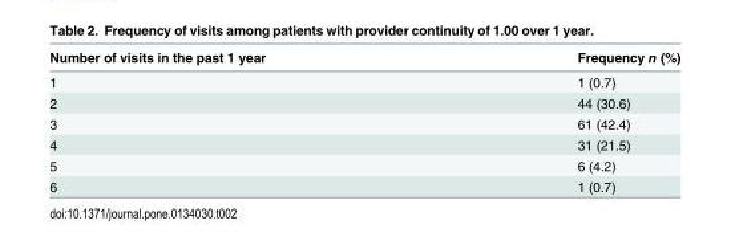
<table><thead><tr><td>Number of visits in the past 1 year</td><td>Frequency n (%)</td></tr></thead><tbody><tr><td>1</td><td>1 (0.7)</td></tr><tr><td>2</td><td>44 (30.6)</td></tr><tr><td>3</td><td>61 (42.4)</td></tr><tr><td>4</td><td>31 (21.5)</td></tr><tr><td>5</td><td>6 (4.2)</td></tr><tr><td>6</td><td>1 (0.7)</td></tr></tbody></table>